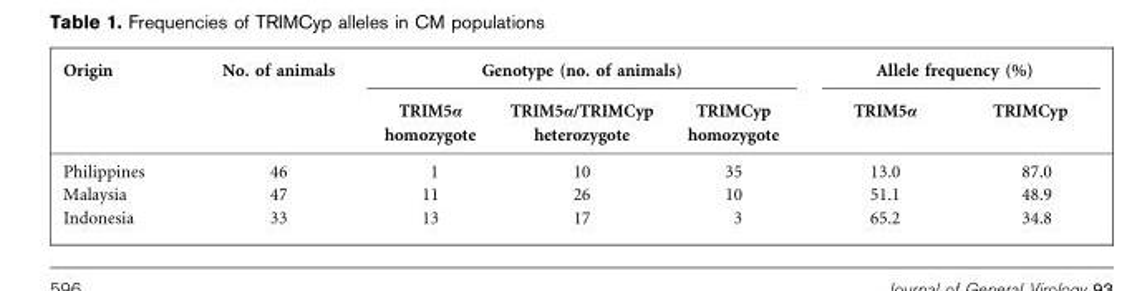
<table><thead><tr><td rowspan="2">Origin</td><td rowspan="2">No. of animals</td><td colspan="3">Genotype (no. of animals)</td><td colspan="2">Allele frequency (%)</td></tr><tr><td>TRIM5α homozygote</td><td>TRIM5α/TRIMCyp heterozygote</td><td>TRIMCyp homozygote</td><td>TRIM5α</td><td>TRIMCyp</td></tr></thead><tbody><tr><td>Philippines</td><td>46</td><td>1</td><td>10</td><td>35</td><td>13.0</td><td>87.0</td></tr><tr><td>Malaysia</td><td>47</td><td>11</td><td>26</td><td>10</td><td>51.1</td><td>48.9</td></tr><tr><td>Indonesia</td><td>33</td><td>13</td><td>17</td><td>3</td><td>65.2</td><td>34.8</td></tr></tbody></table>